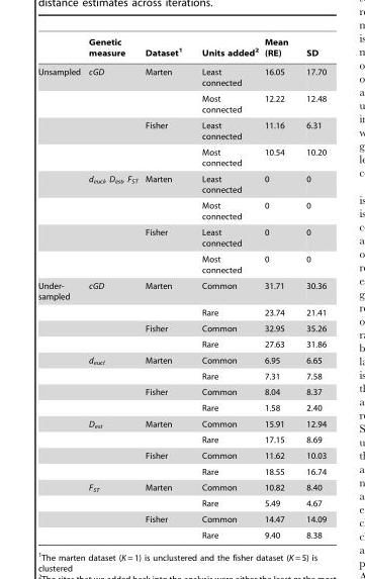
<table><thead><tr><td></td><td>Genetic measure</td><td>Dataset<sup>1</sup></td><td>Units added<sup>2</sup></td><td>Mean (RE)</td><td>SD</td></tr></thead><tbody><tr><td rowspan="8">Unsampled</td><td>cGD</td><td>Marten</td><td>Least connected</td><td>16.05</td><td>17.70</td></tr><tr><td></td><td></td><td>Most connected</td><td>12.22</td><td>12.48</td></tr><tr><td></td><td>Fisher</td><td>Least connected</td><td>11.16</td><td>6.31</td></tr><tr><td></td><td></td><td>Most connected</td><td>10.54</td><td>10.20</td></tr><tr><td>d<sub>eucl</sub>, D<sub>est</sub>, F<sub>ST</sub></td><td>Marten</td><td>Least connected</td><td>0</td><td>0</td></tr><tr><td></td><td></td><td>Most connected</td><td>0</td><td>0</td></tr><tr><td></td><td>Fisher</td><td>Least connected</td><td>0</td><td>0</td></tr><tr><td></td><td></td><td>Most connected</td><td>0</td><td>0</td></tr><tr><td rowspan="16">Under- sampled</td><td>cGD</td><td>Marten</td><td>Common</td><td>31.71</td><td>30.36</td></tr><tr><td></td><td></td><td>Rare</td><td>23.74</td><td>21.41</td></tr><tr><td></td><td>Fisher</td><td>Common</td><td>32.95</td><td>35.26</td></tr><tr><td></td><td></td><td>Rare</td><td>27.63</td><td>31.86</td></tr><tr><td>d<sub>eucl</sub></td><td>Marten</td><td>Common</td><td>6.95</td><td>6.65</td></tr><tr><td></td><td></td><td>Rare</td><td>7.31</td><td>7.58</td></tr><tr><td></td><td>Fisher</td><td>Common</td><td>8.04</td><td>8.37</td></tr><tr><td></td><td></td><td>Rare</td><td>1.58</td><td>2.40</td></tr><tr><td>D<sub>est</sub></td><td>Marten</td><td>Common</td><td>15.91</td><td>12.94</td></tr><tr><td></td><td></td><td>Rare</td><td>17.15</td><td>8.69</td></tr><tr><td></td><td>Fisher</td><td>Common</td><td>11.62</td><td>10.03</td></tr><tr><td></td><td></td><td>Rare</td><td>18.55</td><td>16.74</td></tr><tr><td>F<sub>ST</sub></td><td>Marten</td><td>Common</td><td>10.82</td><td>8.40</td></tr><tr><td></td><td></td><td>Rare</td><td>5.49</td><td>4.67</td></tr><tr><td></td><td>Fisher</td><td>Common</td><td>14.47</td><td>14.09</td></tr><tr><td></td><td></td><td>Rare</td><td>9.40</td><td>8.38</td></tr></tbody></table>